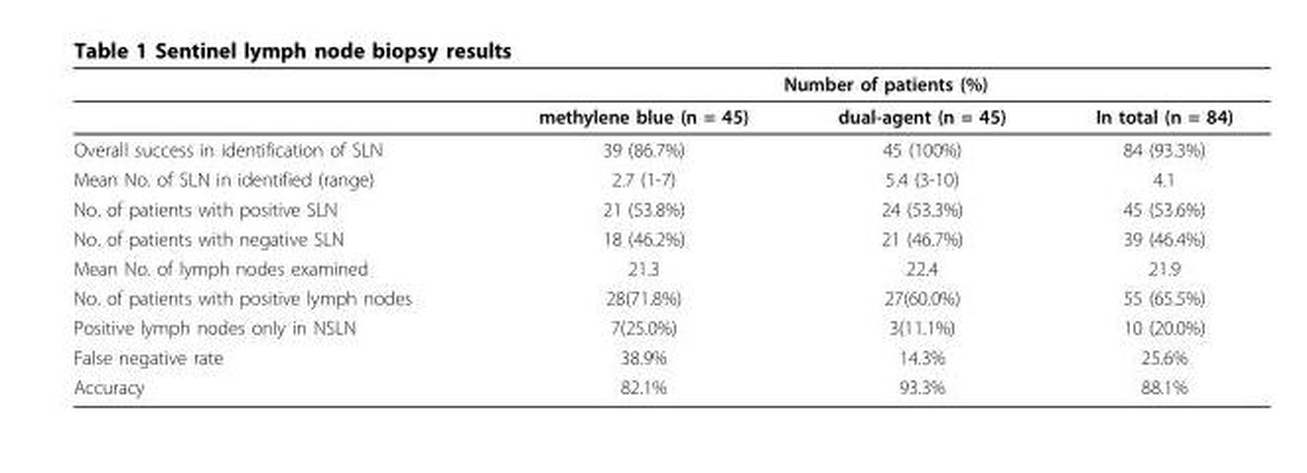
<table><thead><tr><td rowspan="2"></td><td colspan="3">Number of patients (%)</td></tr><tr><td>methylene blue (n = 45)</td><td>dual-agent (n = 45)</td><td>In total (n = 84)</td></tr></thead><tbody><tr><td>Overall success in identification of SLN</td><td>39 (86.7%)</td><td>45 (100%)</td><td>84 (93.3%)</td></tr><tr><td>Mean No. of SLN in identified (range)</td><td>2.7 (1-7)</td><td>5.4 (3-10)</td><td>4.1</td></tr><tr><td>No. of patients with positive SLN</td><td>21 (53.8%)</td><td>24 (53.3%)</td><td>45 (53.6%)</td></tr><tr><td>No. of patients with negative SLN</td><td>18 (46.2%)</td><td>21 (46.7%)</td><td>39 (46.4%)</td></tr><tr><td>Mean No. of lymph nodes examined</td><td>21.3</td><td>22.4</td><td>21.9</td></tr><tr><td>No. of patients with positive lymph nodes</td><td>28(71.8%)</td><td>27(60.0%)</td><td>55 (65.5%)</td></tr><tr><td>Positive lymph nodes only in NSLN</td><td>7(25.0%)</td><td>3(11.1%)</td><td>10 (20.0%)</td></tr><tr><td>False negative rate</td><td>38.9%</td><td>14.3%</td><td>25.6%</td></tr><tr><td>Accuracy</td><td>82.1%</td><td>93.3%</td><td>88.1%</td></tr></tbody></table>